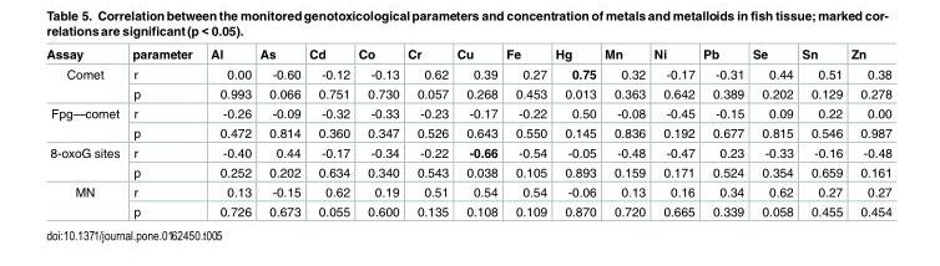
<table><thead><tr><td>Assay</td><td>parameter</td><td>Al</td><td>As</td><td>Cd</td><td>Co</td><td>Cr</td><td>Cu</td><td>Fe</td><td>Hg</td><td>Mn</td><td>Ni</td><td>Pb</td><td>Se</td><td>Sn</td><td>Zn</td></tr></thead><tbody><tr><td rowspan="2">Comet</td><td>r</td><td>0.00</td><td>-0.60</td><td>-0.12</td><td>-0.13</td><td>0.62</td><td>0.39</td><td>0.27</td><td>0.75</td><td>0.32</td><td>-0.17</td><td>-0.31</td><td>0.44</td><td>0.51</td><td>0.38</td></tr><tr><td>p</td><td>0.993</td><td>0.066</td><td>0.751</td><td>0.730</td><td>0.057</td><td>0.268</td><td>0.453</td><td>0.013</td><td>0.363</td><td>0.642</td><td>0.389</td><td>0.202</td><td>0.129</td><td>0.278</td></tr><tr><td rowspan="2">Fpg—comet</td><td>r</td><td>-0.26</td><td>-0.09</td><td>-0.32</td><td>-0.33</td><td>-0.23</td><td>-0.17</td><td>-0.22</td><td>0.50</td><td>-0.08</td><td>-0.45</td><td>-0.15</td><td>0.09</td><td>0.22</td><td>0.00</td></tr><tr><td>p</td><td>0.472</td><td>0.814</td><td>0.360</td><td>0.347</td><td>0.526</td><td>0.643</td><td>0.550</td><td>0.145</td><td>0.836</td><td>0.192</td><td>0.677</td><td>0.815</td><td>0.546</td><td>0.987</td></tr><tr><td rowspan="2">8-oxoG sites</td><td>r</td><td>-0.40</td><td>0.44</td><td>-0.17</td><td>-0.34</td><td>-0.22</td><td>-0.66</td><td>-0.54</td><td>-0.05</td><td>-0.48</td><td>-0.47</td><td>0.23</td><td>-0.33</td><td>-0.16</td><td>-0.48</td></tr><tr><td>p</td><td>0.252</td><td>0.202</td><td>0.634</td><td>0.340</td><td>0.543</td><td>0.038</td><td>0.105</td><td>0.893</td><td>0.159</td><td>0.171</td><td>0.524</td><td>0.354</td><td>0.659</td><td>0.161</td></tr><tr><td rowspan="2">MN</td><td>r</td><td>0.13</td><td>-0.15</td><td>0.62</td><td>0.19</td><td>0.51</td><td>0.54</td><td>0.54</td><td>-0.06</td><td>0.13</td><td>0.16</td><td>0.34</td><td>0.62</td><td>0.27</td><td>0.27</td></tr><tr><td>p</td><td>0.726</td><td>0.673</td><td>0.055</td><td>0.600</td><td>0.135</td><td>0.108</td><td>0.109</td><td>0.870</td><td>0.720</td><td>0.665</td><td>0.339</td><td>0.058</td><td>0.455</td><td>0.454</td></tr></tbody></table>